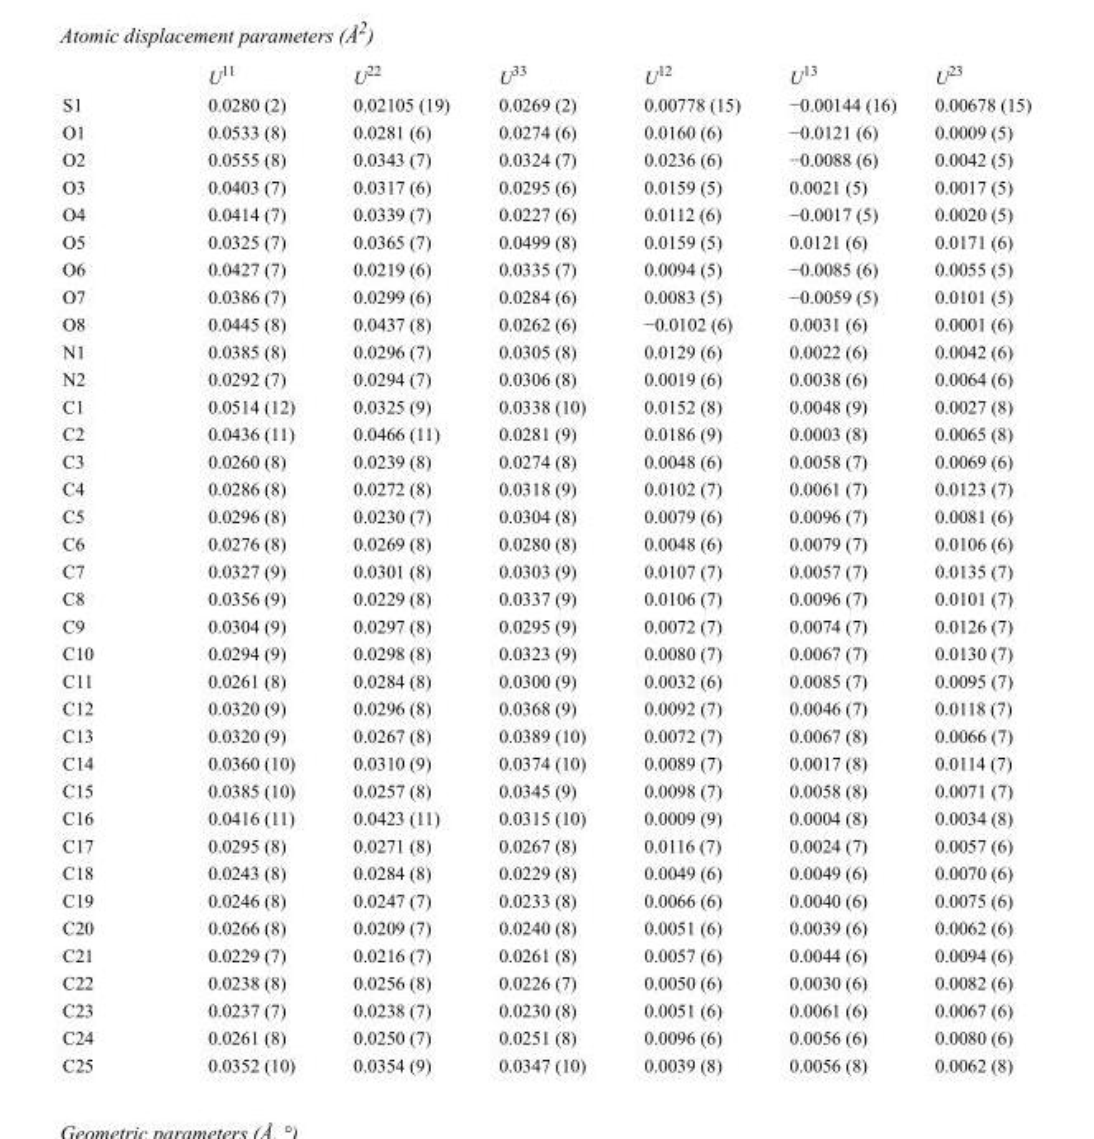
<table><thead><tr><td></td><td>U<sup>11</sup></td><td>U<sup>22</sup></td><td>U<sup>33</sup></td><td>U<sup>12</sup></td><td>U<sup>13</sup></td><td>U<sup>23</sup></td></tr></thead><tbody><tr><td>S1</td><td>0.0280 (2)</td><td>0.02105 (19)</td><td>0.0269 (2)</td><td>0.00778 (15)</td><td>−0.00144 (16)</td><td>0.00678 (15)</td></tr><tr><td>O1</td><td>0.0533 (8)</td><td>0.0281 (6)</td><td>0.0274 (6)</td><td>0.0160 (6)</td><td>−0.0121 (6)</td><td>0.0009 (5)</td></tr><tr><td>O2</td><td>0.0555 (8)</td><td>0.0343 (7)</td><td>0.0324 (7)</td><td>0.0236 (6)</td><td>−0.0088 (6)</td><td>0.0042 (5)</td></tr><tr><td>O3</td><td>0.0403 (7)</td><td>0.0317 (6)</td><td>0.0295 (6)</td><td>0.0159 (5)</td><td>0.0021 (5)</td><td>0.0017 (5)</td></tr><tr><td>O4</td><td>0.0414 (7)</td><td>0.0339 (7)</td><td>0.0227 (6)</td><td>0.0112 (6)</td><td>−0.0017 (5)</td><td>0.0020 (5)</td></tr><tr><td>O5</td><td>0.0325 (7)</td><td>0.0365 (7)</td><td>0.0499 (8)</td><td>0.0159 (5)</td><td>0.0121 (6)</td><td>0.0171 (6)</td></tr><tr><td>O6</td><td>0.0427 (7)</td><td>0.0219 (6)</td><td>0.0335 (7)</td><td>0.0094 (5)</td><td>−0.0085 (6)</td><td>0.0055 (5)</td></tr><tr><td>O7</td><td>0.0386 (7)</td><td>0.0299 (6)</td><td>0.0284 (6)</td><td>0.0083 (5)</td><td>−0.0059 (5)</td><td>0.0101 (5)</td></tr><tr><td>O8</td><td>0.0445 (8)</td><td>0.0437 (8)</td><td>0.0262 (6)</td><td>−0.0102 (6)</td><td>0.0031 (6)</td><td>0.0001 (6)</td></tr><tr><td>N1</td><td>0.0385 (8)</td><td>0.0296 (7)</td><td>0.0305 (8)</td><td>0.0129 (6)</td><td>0.0022 (6)</td><td>0.0042 (6)</td></tr><tr><td>N2</td><td>0.0292 (7)</td><td>0.0294 (7)</td><td>0.0306 (8)</td><td>0.0019 (6)</td><td>0.0038 (6)</td><td>0.0064 (6)</td></tr><tr><td>C1</td><td>0.0514 (12)</td><td>0.0325 (9)</td><td>0.0338 (10)</td><td>0.0152 (8)</td><td>0.0048 (9)</td><td>0.0027 (8)</td></tr><tr><td>C2</td><td>0.0436 (11)</td><td>0.0466 (11)</td><td>0.0281 (9)</td><td>0.0186 (9)</td><td>0.0003 (8)</td><td>0.0065 (8)</td></tr><tr><td>C3</td><td>0.0260 (8)</td><td>0.0239 (8)</td><td>0.0274 (8)</td><td>0.0048 (6)</td><td>0.0058 (7)</td><td>0.0069 (6)</td></tr><tr><td>C4</td><td>0.0286 (8)</td><td>0.0272 (8)</td><td>0.0318 (9)</td><td>0.0102 (7)</td><td>0.0061 (7)</td><td>0.0123 (7)</td></tr><tr><td>C5</td><td>0.0296 (8)</td><td>0.0230 (7)</td><td>0.0304 (8)</td><td>0.0079 (6)</td><td>0.0096 (7)</td><td>0.0081 (6)</td></tr><tr><td>C6</td><td>0.0276 (8)</td><td>0.0269 (8)</td><td>0.0280 (8)</td><td>0.0048 (6)</td><td>0.0079 (7)</td><td>0.0106 (6)</td></tr><tr><td>C7</td><td>0.0327 (9)</td><td>0.0301 (8)</td><td>0.0303 (9)</td><td>0.0107 (7)</td><td>0.0057 (7)</td><td>0.0135 (7)</td></tr><tr><td>C8</td><td>0.0356 (9)</td><td>0.0229 (8)</td><td>0.0337 (9)</td><td>0.0106 (7)</td><td>0.0096 (7)</td><td>0.0101 (7)</td></tr><tr><td>C9</td><td>0.0304 (9)</td><td>0.0297 (8)</td><td>0.0295 (9)</td><td>0.0072 (7)</td><td>0.0074 (7)</td><td>0.0126 (7)</td></tr><tr><td>C10</td><td>0.0294 (9)</td><td>0.0298 (8)</td><td>0.0323 (9)</td><td>0.0080 (7)</td><td>0.0067 (7)</td><td>0.0130 (7)</td></tr><tr><td>C11</td><td>0.0261 (8)</td><td>0.0284 (8)</td><td>0.0300 (9)</td><td>0.0032 (6)</td><td>0.0085 (7)</td><td>0.0095 (7)</td></tr><tr><td>C12</td><td>0.0320 (9)</td><td>0.0296 (8)</td><td>0.0368 (9)</td><td>0.0092 (7)</td><td>0.0046 (7)</td><td>0.0118 (7)</td></tr><tr><td>C13</td><td>0.0320 (9)</td><td>0.0267 (8)</td><td>0.0389 (10)</td><td>0.0072 (7)</td><td>0.0067 (8)</td><td>0.0066 (7)</td></tr><tr><td>C14</td><td>0.0360 (10)</td><td>0.0310 (9)</td><td>0.0374 (10)</td><td>0.0089 (7)</td><td>0.0017 (8)</td><td>0.0114 (7)</td></tr><tr><td>C15</td><td>0.0385 (10)</td><td>0.0257 (8)</td><td>0.0345 (9)</td><td>0.0098 (7)</td><td>0.0058 (8)</td><td>0.0071 (7)</td></tr><tr><td>C16</td><td>0.0416 (11)</td><td>0.0423 (11)</td><td>0.0315 (10)</td><td>0.0009 (9)</td><td>0.0004 (8)</td><td>0.0034 (8)</td></tr><tr><td>C17</td><td>0.0295 (8)</td><td>0.0271 (8)</td><td>0.0267 (8)</td><td>0.0116 (7)</td><td>0.0024 (7)</td><td>0.0057 (6)</td></tr><tr><td>C18</td><td>0.0243 (8)</td><td>0.0284 (8)</td><td>0.0229 (8)</td><td>0.0049 (6)</td><td>0.0049 (6)</td><td>0.0070 (6)</td></tr><tr><td>C19</td><td>0.0246 (8)</td><td>0.0247 (7)</td><td>0.0233 (8)</td><td>0.0066 (6)</td><td>0.0040 (6)</td><td>0.0075 (6)</td></tr><tr><td>C20</td><td>0.0266 (8)</td><td>0.0209 (7)</td><td>0.0240 (8)</td><td>0.0051 (6)</td><td>0.0039 (6)</td><td>0.0062 (6)</td></tr><tr><td>C21</td><td>0.0229 (7)</td><td>0.0216 (7)</td><td>0.0261 (8)</td><td>0.0057 (6)</td><td>0.0044 (6)</td><td>0.0094 (6)</td></tr><tr><td>C22</td><td>0.0238 (8)</td><td>0.0256 (8)</td><td>0.0226 (7)</td><td>0.0050 (6)</td><td>0.0030 (6)</td><td>0.0082 (6)</td></tr><tr><td>C23</td><td>0.0237 (7)</td><td>0.0238 (7)</td><td>0.0230 (8)</td><td>0.0051 (6)</td><td>0.0061 (6)</td><td>0.0067 (6)</td></tr><tr><td>C24</td><td>0.0261 (8)</td><td>0.0250 (7)</td><td>0.0251 (8)</td><td>0.0096 (6)</td><td>0.0056 (6)</td><td>0.0080 (6)</td></tr><tr><td>C25</td><td>0.0352 (10)</td><td>0.0354 (9)</td><td>0.0347 (10)</td><td>0.0039 (8)</td><td>0.0056 (8)</td><td>0.0062 (8)</td></tr></tbody></table>